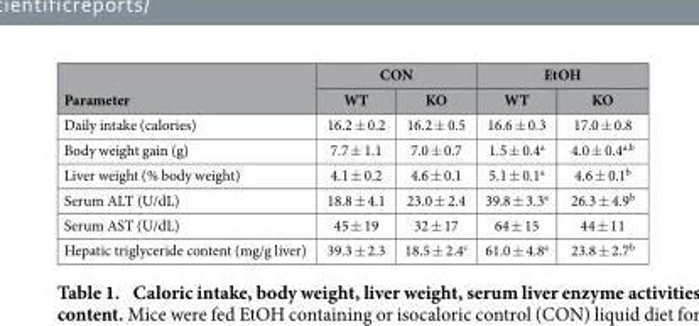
<table><thead><tr><td rowspan="2">Parameter</td><td colspan="2">CON</td><td colspan="2">EtOH</td></tr><tr><td>WT</td><td>KO</td><td>WT</td><td>KO</td></tr></thead><tbody><tr><td>Daily intake (calories)</td><td>16.2 ± 0.2</td><td>16.2 ± 0.5</td><td>16.6 ± 0.3</td><td>17.0 ± 0.8</td></tr><tr><td>Body weight gain (g)</td><td>7.7 ± 1.1</td><td>7.0 ± 0.7</td><td>1.5 ± 0.4<sup>a</sup></td><td>4.0 ± 0.4<sup>a,b</sup></td></tr><tr><td>Liver weight (% body weight)</td><td>4.1 ± 0.2</td><td>4.6 ± 0.1</td><td>5.1 ± 0.1<sup>a</sup></td><td>4.6 ± 0.1<sup>b</sup></td></tr><tr><td>Serum ALT (U/dL)</td><td>18.8 ± 4.1</td><td>23.0 ± 2.4</td><td>39.8 ± 3.3<sup>a</sup></td><td>26.3 ± 4.9<sup>b</sup></td></tr><tr><td>Serum AST (U/dL)</td><td>45 ± 19</td><td>32 ± 17</td><td>64 ± 15</td><td>44 ± 11</td></tr><tr><td>Hepatic triglyceride content (mg/g liver)</td><td>39.3 ± 2.3</td><td>18.5 ± 2.4<sup>c</sup></td><td>61.0 ± 4.8<sup>a</sup></td><td>23.8 ± 2.7<sup>b</sup></td></tr></tbody></table>